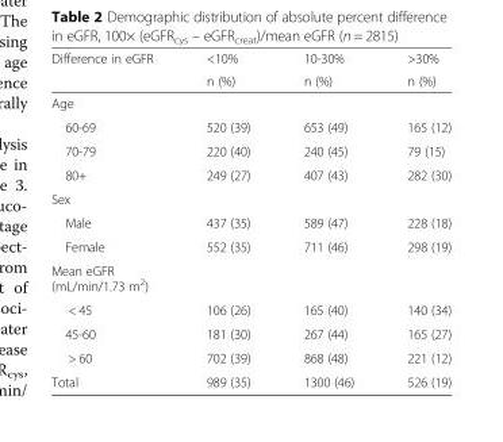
<table><thead><tr><td rowspan="2">Difference in eGFR</td><td rowspan="2">&lt;10% n (%)</td><td rowspan="2">10-30% n (%)</td><td rowspan="2">&gt;30% n (%)</td></tr><tr></tr></thead><tbody><tr><td colspan="4">Age</td></tr><tr><td>60-69</td><td>520 (39)</td><td>653 (49)</td><td>165 (12)</td></tr><tr><td>70-79</td><td>220 (40)</td><td>240 (45)</td><td>79 (15)</td></tr><tr><td>80+</td><td>249 (27)</td><td>407 (43)</td><td>282 (30)</td></tr><tr><td colspan="4">Sex</td></tr><tr><td>Male</td><td>437 (35)</td><td>589 (47)</td><td>228 (18)</td></tr><tr><td>Female</td><td>552 (35)</td><td>711 (46)</td><td>298 (19)</td></tr><tr><td colspan="4">Mean eGFR (mL/min/1.73 m<sup>2</sup>)</td></tr><tr><td>&lt; 45</td><td>106 (26)</td><td>165 (40)</td><td>140 (34)</td></tr><tr><td>45-60</td><td>181 (30)</td><td>267 (44)</td><td>165 (27)</td></tr><tr><td>&gt; 60</td><td>702 (39)</td><td>868 (48)</td><td>221 (12)</td></tr><tr><td>Total</td><td>989 (35)</td><td>1300 (46)</td><td>526 (19)</td></tr></tbody></table>